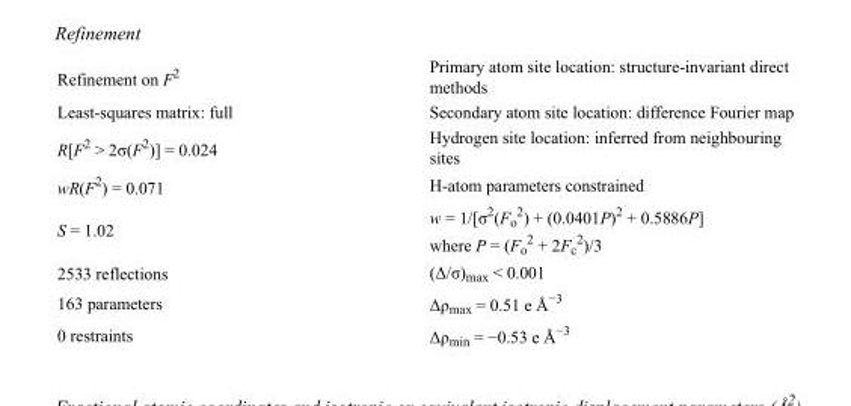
<table><tbody><tr><td>Refinement on F<sup>2</sup></td><td>Primary atom site location: structure-invariant direct methods</td></tr><tr><td>Least-squares matrix: full</td><td>Secondary atom site location: difference Fourier map</td></tr><tr><td>R[F<sup>2</sup> &gt; 2σ(F<sup>2</sup>)] = 0.024</td><td>Hydrogen site location: inferred from neighbouring sites</td></tr><tr><td>wR(F<sup>2</sup>) = 0.071</td><td>H-atom parameters constrained</td></tr><tr><td>S = 1.02</td><td>w = 1/[σ<sup>2</sup>(F<sub>o</sub> <sup>2</sup>) + (0.0401P)<sup>2</sup> + 0.5886P] where P = (F<sub>o</sub> <sup>2</sup> + 2F<sub>c</sub> <sup>2</sup>)/3</td></tr><tr><td>2533 reflections</td><td>(Δ/σ)<sub>max</sub> &lt; 0.001</td></tr><tr><td>163 parameters</td><td>Δρ<sub>max</sub> = 0.51 e Å<sup>−3</sup></td></tr><tr><td>0 restraints</td><td>Δρ<sub>min</sub> = −0.53 e Å<sup>−3</sup></td></tr></tbody></table>